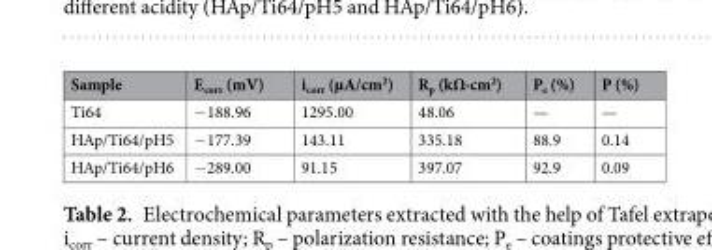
<table><thead><tr><td>Sample</td><td>E<sub>corr</sub> (mV)</td><td>i<sub>corr</sub> (µA/cm<sup>2</sup>)</td><td>R<sub>p</sub> (kΩ∙cm<sup>2</sup>)</td><td>P<sub>e</sub> (%)</td><td>P (%)</td></tr></thead><tbody><tr><td>Ti64</td><td>−188.96</td><td>1295.00</td><td>48.06</td><td>—</td><td>—</td></tr><tr><td>HAp/Ti64/pH5</td><td>−177.39</td><td>143.11</td><td>335.18</td><td>88.9</td><td>0.14</td></tr><tr><td>HAp/Ti64/pH6</td><td>−289.00</td><td>91.15</td><td>397.07</td><td>92.9</td><td>0.09</td></tr></tbody></table>